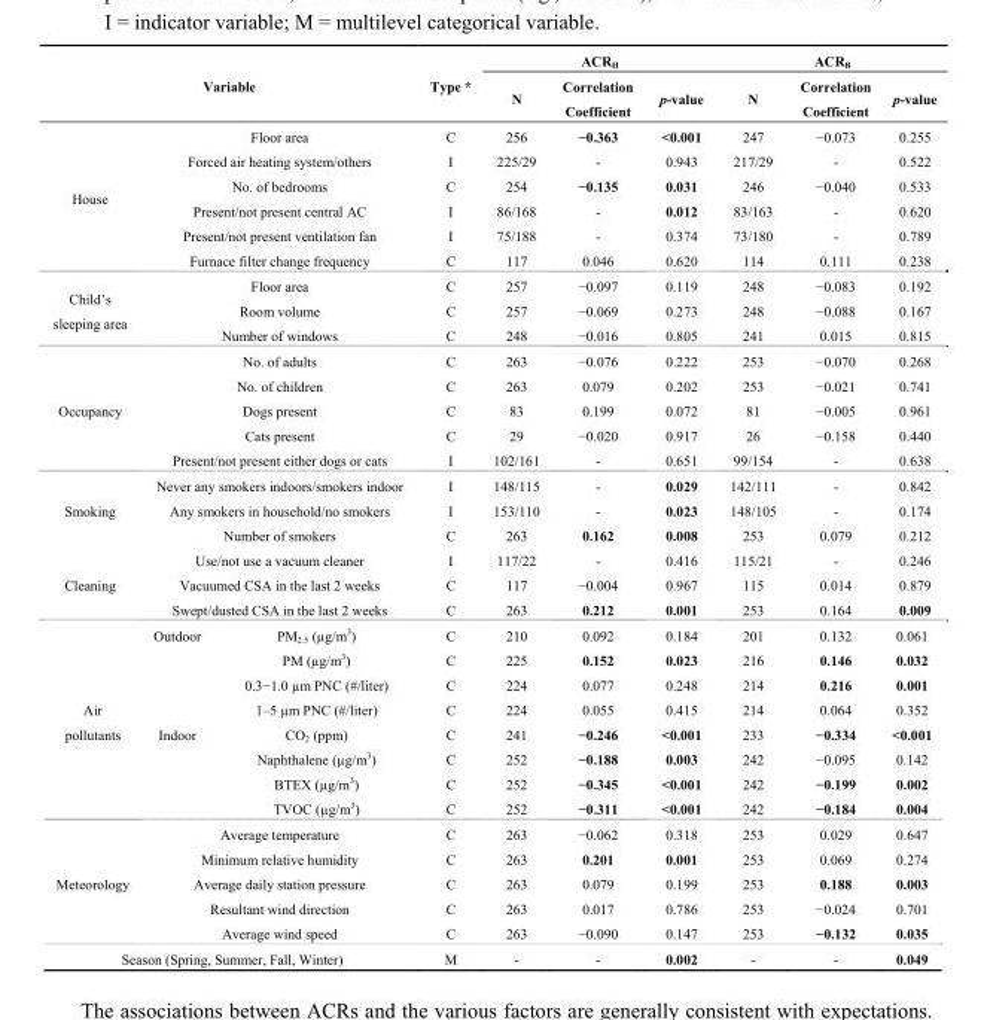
<table><thead><tr><td rowspan="2" colspan="3">Variable</td><td rowspan="2">Type *</td><td colspan="3">ACR<sub>H</sub></td><td colspan="3">ACR<sub>B</sub></td></tr><tr><td>N</td><td>Correlation Coefficient</td><td>p-value</td><td>N</td><td>Correlation Coefficient</td><td>p-value</td></tr></thead><tbody><tr><td rowspan="6">House</td><td colspan="2">Floor area</td><td>C</td><td>256</td><td>−0.363</td><td>&lt;0.001</td><td>247</td><td>−0.073</td><td>0.255</td></tr><tr><td colspan="2">Forced air heating system/others</td><td>I</td><td>225/29</td><td>-</td><td>0.943</td><td>217/29</td><td>-</td><td>0.522</td></tr><tr><td colspan="2">No. of bedrooms</td><td>C</td><td>254</td><td>−0.135</td><td>0.031</td><td>246</td><td>−0.040</td><td>0.533</td></tr><tr><td colspan="2">Present/not present central AC</td><td>I</td><td>86/168</td><td>-</td><td>0.012</td><td>83/163</td><td>-</td><td>0.620</td></tr><tr><td colspan="2">Present/not present ventilation fan</td><td>I</td><td>75/188</td><td>-</td><td>0.374</td><td>73/180</td><td>-</td><td>0.789</td></tr><tr><td colspan="2">Furnace filter change frequency</td><td>C</td><td>117</td><td>0.046</td><td>0.620</td><td>114</td><td>0.111</td><td>0.238</td></tr><tr><td rowspan="3">Child’s sleeping area</td><td colspan="2">Floor area</td><td>C</td><td>257</td><td>−0.097</td><td>0.119</td><td>248</td><td>−0.083</td><td>0.192</td></tr><tr><td colspan="2">Room volume</td><td>C</td><td>257</td><td>−0.069</td><td>0.273</td><td>248</td><td>−0.088</td><td>0.167</td></tr><tr><td colspan="2">Number of windows</td><td>C</td><td>248</td><td>−0.016</td><td>0.805</td><td>241</td><td>0.015</td><td>0.815</td></tr><tr><td rowspan="5">Occupancy</td><td colspan="2">No. of adults</td><td>C</td><td>263</td><td>−0.076</td><td>0.222</td><td>253</td><td>−0.070</td><td>0.268</td></tr><tr><td colspan="2">No. of children</td><td>C</td><td>263</td><td>0.079</td><td>0.202</td><td>253</td><td>−0.021</td><td>0.741</td></tr><tr><td colspan="2">Dogs present</td><td>C</td><td>83</td><td>0.199</td><td>0.072</td><td>81</td><td>−0.005</td><td>0.961</td></tr><tr><td colspan="2">Cats present</td><td>C</td><td>29</td><td>−0.020</td><td>0.917</td><td>26</td><td>−0.158</td><td>0.440</td></tr><tr><td colspan="2">Present/not present either dogs or cats</td><td>I</td><td>102/161</td><td>-</td><td>0.651</td><td>99/154</td><td>-</td><td>0.638</td></tr><tr><td rowspan="3">Smoking</td><td colspan="2">Never any smokers indoors/smokers indoor</td><td>I</td><td>148/115</td><td>-</td><td>0.029</td><td>142/111</td><td>-</td><td>0.842</td></tr><tr><td colspan="2">Any smokers in household/no smokers</td><td>I</td><td>153/110</td><td>-</td><td>0.023</td><td>148/105</td><td>-</td><td>0.174</td></tr><tr><td colspan="2">Number of smokers</td><td>C</td><td>263</td><td>0.162</td><td>0.008</td><td>253</td><td>0.079</td><td>0.212</td></tr><tr><td rowspan="3">Cleaning</td><td colspan="2">Use/not use a vacuum cleaner</td><td>I</td><td>117/22</td><td>-</td><td>0.416</td><td>115/21</td><td>-</td><td>0.246</td></tr><tr><td colspan="2">Vacuumed CSA in the last 2 weeks</td><td>C</td><td>117</td><td>−0.004</td><td>0.967</td><td>115</td><td>0.014</td><td>0.879</td></tr><tr><td colspan="2">Swept/dusted CSA in the last 2 weeks</td><td>C</td><td>263</td><td>0.212</td><td>0.001</td><td>253</td><td>0.164</td><td>0.009</td></tr><tr><td rowspan="8">Air pollutants</td><td>Outdoor</td><td>PM<sub>2.5</sub> (µg/m<sup>3</sup>)</td><td>C</td><td>210</td><td>0.092</td><td>0.184</td><td>201</td><td>0.132</td><td>0.061</td></tr><tr><td rowspan="7">Indoor</td><td>PM (µg/m<sup>3</sup>)</td><td>C</td><td>225</td><td>0.152</td><td>0.023</td><td>216</td><td>0.146</td><td>0.032</td></tr><tr><td>0.3−1.0 µm PNC (#/liter)</td><td>C</td><td>224</td><td>0.077</td><td>0.248</td><td>214</td><td>0.216</td><td>0.001</td></tr><tr><td>1–5 µm PNC (#/liter)</td><td>C</td><td>224</td><td>0.055</td><td>0.415</td><td>214</td><td>0.064</td><td>0.352</td></tr><tr><td>CO<sub>2</sub> (ppm)</td><td>C</td><td>241</td><td>−0.246</td><td>&lt;0.001</td><td>233</td><td>−0.334</td><td>&lt;0.001</td></tr><tr><td>Naphthalene (µg/m<sup>3</sup>)</td><td>C</td><td>252</td><td>−0.188</td><td>0.003</td><td>242</td><td>−0.095</td><td>0.142</td></tr><tr><td>BTEX (µg/m<sup>3</sup>)</td><td>C</td><td>252</td><td>−0.345</td><td>&lt;0.001</td><td>242</td><td>−0.199</td><td>0.002</td></tr><tr><td>TVOC (µg/m<sup>3</sup>)</td><td>C</td><td>252</td><td>−0.311</td><td>&lt;0.001</td><td>242</td><td>−0.184</td><td>0.004</td></tr><tr><td rowspan="5">Meteorology</td><td colspan="2">Average temperature</td><td>C</td><td>263</td><td>−0.062</td><td>0.318</td><td>253</td><td>0.029</td><td>0.647</td></tr><tr><td colspan="2">Minimum relative humidity</td><td>C</td><td>263</td><td>0.201</td><td>0.001</td><td>253</td><td>0.069</td><td>0.274</td></tr><tr><td colspan="2">Average daily station pressure</td><td>C</td><td>263</td><td>0.079</td><td>0.199</td><td>253</td><td>0.188</td><td>0.003</td></tr><tr><td colspan="2">Resultant wind direction</td><td>C</td><td>263</td><td>0.017</td><td>0.786</td><td>253</td><td>−0.024</td><td>0.701</td></tr><tr><td colspan="2">Average wind speed</td><td>C</td><td>263</td><td>−0.090</td><td>0.147</td><td>253</td><td>−0.132</td><td>0.035</td></tr><tr><td colspan="3">Season (Spring, Summer, Fall, Winter)</td><td>M</td><td>-</td><td>-</td><td>0.002</td><td>-</td><td>-</td><td>0.049</td></tr></tbody></table>